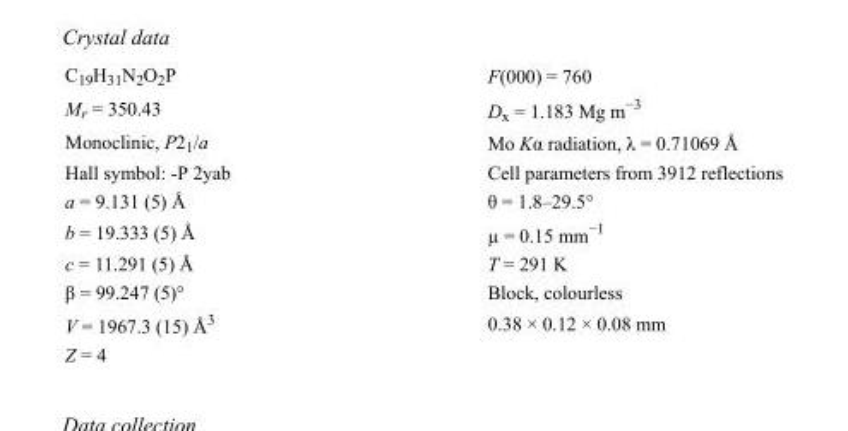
<table><tbody><tr><td>C<sub>19</sub>H<sub>31</sub>N<sub>2</sub>O<sub>2</sub>P</td><td>F(000) = 760</td></tr><tr><td>M<sub>r</sub> = 350.43</td><td>D<sub>x</sub> = 1.183 Mg m<sup>−3</sup></td></tr><tr><td>Monoclinic, P2<sub>1</sub>/a</td><td>Mo Kα radiation, λ = 0.71069 Å</td></tr><tr><td>Hall symbol: -P 2yab</td><td>Cell parameters from 3912 reflections</td></tr><tr><td>a = 9.131 (5) Å</td><td>θ = 1.8–29.5°</td></tr><tr><td>b = 19.333 (5) Å</td><td>µ = 0.15 mm<sup>−1</sup></td></tr><tr><td>c = 11.291 (5) Å</td><td>T = 291 K</td></tr><tr><td>β = 99.247 (5)°</td><td>Block, colourless</td></tr><tr><td>V = 1967.3 (15) Å<sup>3</sup></td><td>0.38 × 0.12 × 0.08 mm</td></tr><tr><td>Z = 4</td><td></td></tr></tbody></table>